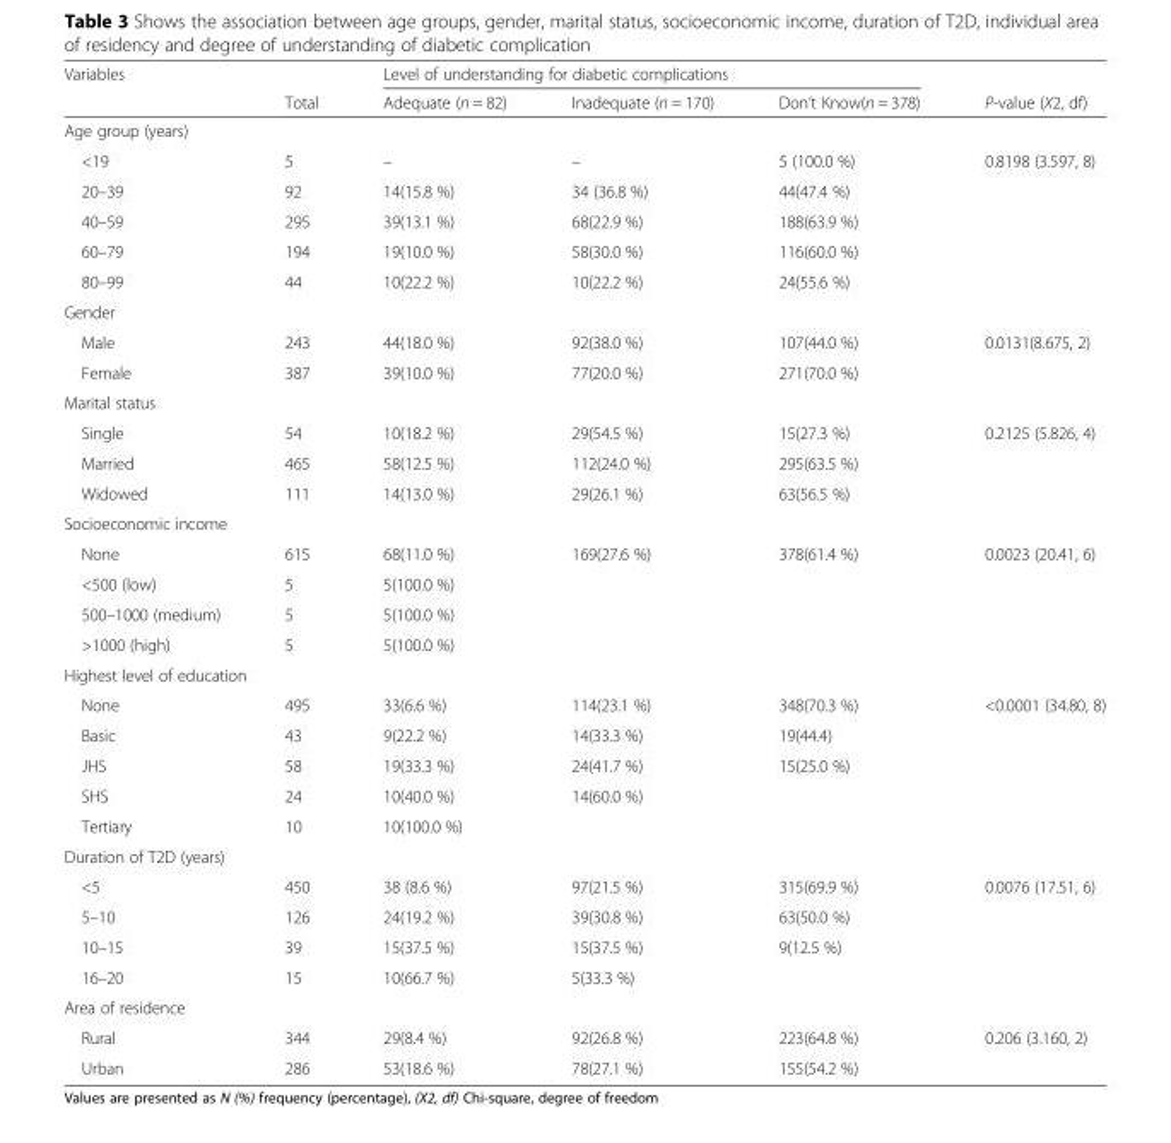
<table><thead><tr><td rowspan="2">Variables</td><td rowspan="2">Total</td><td colspan="3">Level of understanding for diabetic complications</td><td rowspan="2">P-value (X2, df)</td></tr><tr><td>Adequate (n = 82)</td><td>Inadequate (n = 170)</td><td>Don’t Know(n = 378)</td></tr></thead><tbody><tr><td colspan="6">Age group (years)</td></tr><tr><td>&lt;19</td><td>5</td><td>–</td><td>–</td><td>5 (100.0 %)</td><td>0.8198 (3.597, 8)</td></tr><tr><td>20–39</td><td>92</td><td>14(15.8 %)</td><td>34 (36.8 %)</td><td>44(47.4 %)</td><td></td></tr><tr><td>40–59</td><td>295</td><td>39(13.1 %)</td><td>68(22.9 %)</td><td>188(63.9 %)</td><td></td></tr><tr><td>60–79</td><td>194</td><td>19(10.0 %)</td><td>58(30.0 %)</td><td>116(60.0 %)</td><td></td></tr><tr><td>80–99</td><td>44</td><td>10(22.2 %)</td><td>10(22.2 %)</td><td>24(55.6 %)</td><td></td></tr><tr><td colspan="6">Gender</td></tr><tr><td>Male</td><td>243</td><td>44(18.0 %)</td><td>92(38.0 %)</td><td>107(44.0 %)</td><td>0.0131(8.675, 2)</td></tr><tr><td>Female</td><td>387</td><td>39(10.0 %)</td><td>77(20.0 %)</td><td>271(70.0 %)</td><td></td></tr><tr><td colspan="6">Marital status</td></tr><tr><td>Single</td><td>54</td><td>10(18.2 %)</td><td>29(54.5 %)</td><td>15(27.3 %)</td><td>0.2125 (5.826, 4)</td></tr><tr><td>Married</td><td>465</td><td>58(12.5 %)</td><td>112(24.0 %)</td><td>295(63.5 %)</td><td></td></tr><tr><td>Widowed</td><td>111</td><td>14(13.0 %)</td><td>29(26.1 %)</td><td>63(56.5 %)</td><td></td></tr><tr><td colspan="6">Socioeconomic income</td></tr><tr><td>None</td><td>615</td><td>68(11.0 %)</td><td>169(27.6 %)</td><td>378(61.4 %)</td><td>0.0023 (20.41, 6)</td></tr><tr><td>&lt;500 (low)</td><td>5</td><td>5(100.0 %)</td><td></td><td></td><td></td></tr><tr><td>500–1000 (medium)</td><td>5</td><td>5(100.0 %)</td><td></td><td></td><td></td></tr><tr><td>&gt;1000 (high)</td><td>5</td><td>5(100.0 %)</td><td></td><td></td><td></td></tr><tr><td colspan="6">Highest level of education</td></tr><tr><td>None</td><td>495</td><td>33(6.6 %)</td><td>114(23.1 %)</td><td>348(70.3 %)</td><td>&lt;0.0001 (34.80, 8)</td></tr><tr><td>Basic</td><td>43</td><td>9(22.2 %)</td><td>14(33.3 %)</td><td>19(44.4)</td><td></td></tr><tr><td>JHS</td><td>58</td><td>19(33.3 %)</td><td>24(41.7 %)</td><td>15(25.0 %)</td><td></td></tr><tr><td>SHS</td><td>24</td><td>10(40.0 %)</td><td>14(60.0 %)</td><td></td><td></td></tr><tr><td>Tertiary</td><td>10</td><td>10(100.0 %)</td><td></td><td></td><td></td></tr><tr><td colspan="6">Duration of T2D (years)</td></tr><tr><td>&lt;5</td><td>450</td><td>38 (8.6 %)</td><td>97(21.5 %)</td><td>315(69.9 %)</td><td>0.0076 (17.51, 6)</td></tr><tr><td>5–10</td><td>126</td><td>24(19.2 %)</td><td>39(30.8 %)</td><td>63(50.0 %)</td><td></td></tr><tr><td>10–15</td><td>39</td><td>15(37.5 %)</td><td>15(37.5 %)</td><td>9(12.5 %)</td><td></td></tr><tr><td>16–20</td><td>15</td><td>10(66.7 %)</td><td>5(33.3 %)</td><td></td><td></td></tr><tr><td colspan="6">Area of residence</td></tr><tr><td>Rural</td><td>344</td><td>29(8.4 %)</td><td>92(26.8 %)</td><td>223(64.8 %)</td><td>0.206 (3.160, 2)</td></tr><tr><td>Urban</td><td>286</td><td>53(18.6 %)</td><td>78(27.1 %)</td><td>155(54.2 %)</td><td></td></tr></tbody></table>